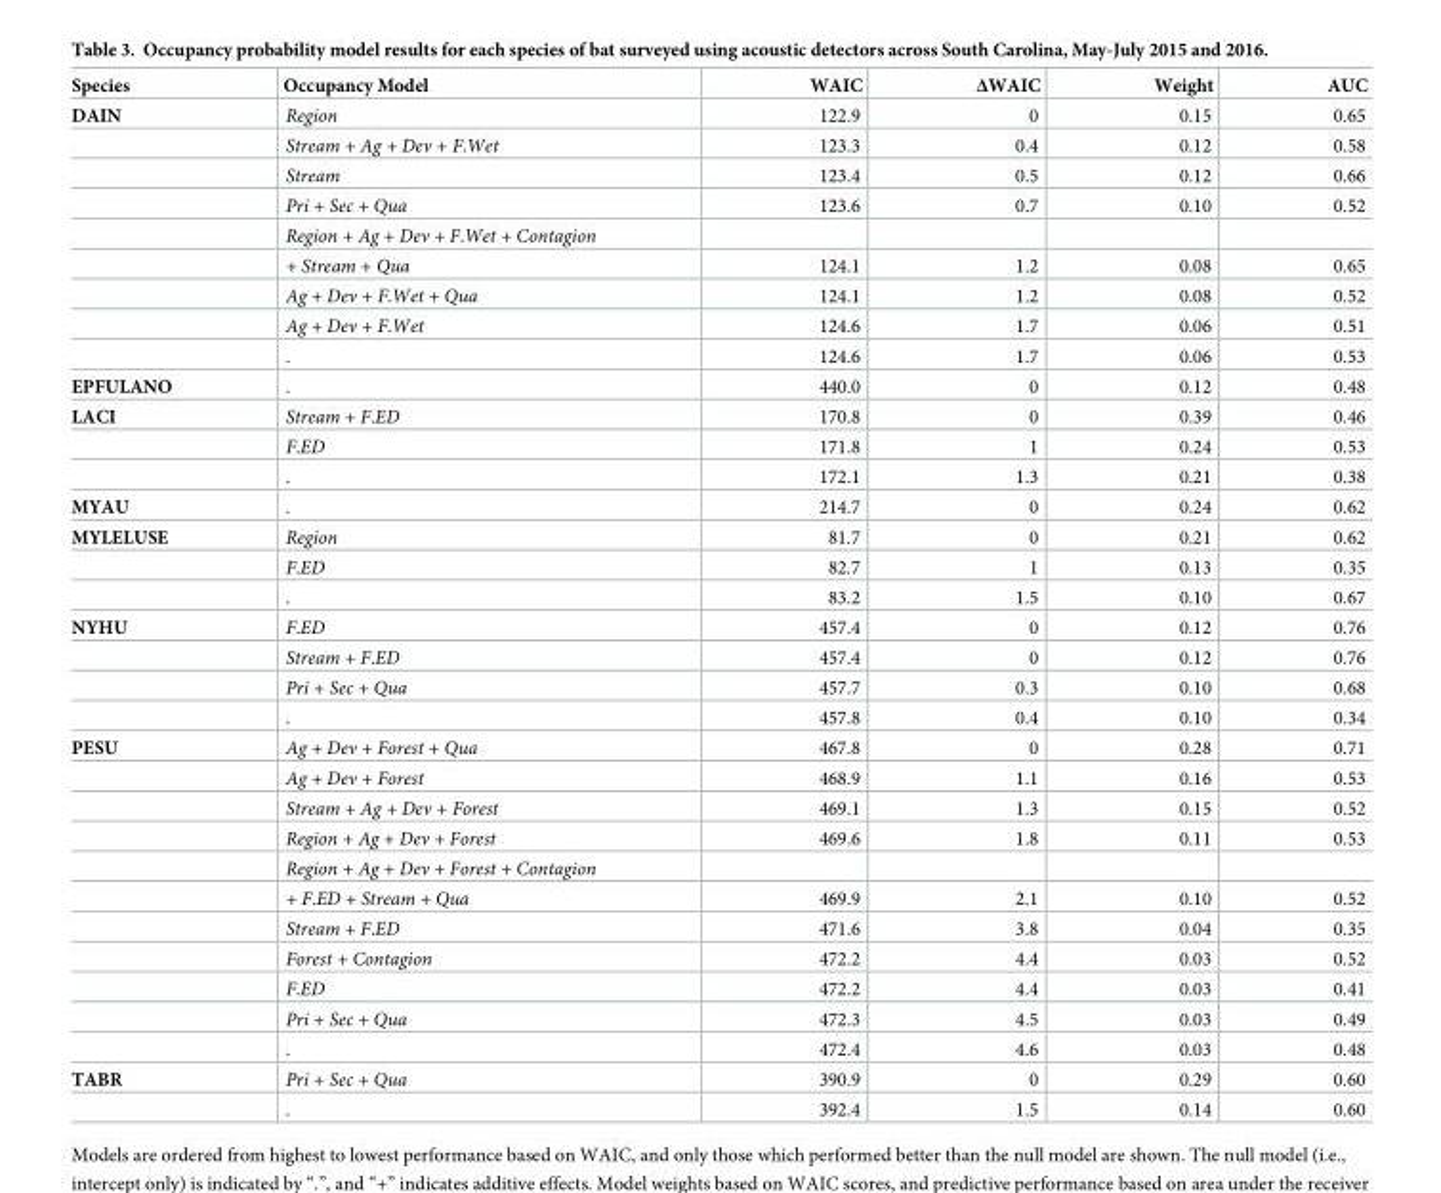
<table><thead><tr><td>Species</td><td>Occupancy Model</td><td>WAIC</td><td>ΔWAIC</td><td>Weight</td><td>AUC</td></tr></thead><tbody><tr><td rowspan="9">DAIN</td><td>Region</td><td>122.9</td><td>0</td><td>0.15</td><td>0.65</td></tr><tr><td>Stream + Ag + Dev + F.Wet</td><td>123.3</td><td>0.4</td><td>0.12</td><td>0.58</td></tr><tr><td>Stream</td><td>123.4</td><td>0.5</td><td>0.12</td><td>0.66</td></tr><tr><td>Pri + Sec + Qua</td><td>123.6</td><td>0.7</td><td>0.10</td><td>0.52</td></tr><tr><td>Region + Ag + Dev + F.Wet + Contagion</td><td></td><td></td><td></td><td></td></tr><tr><td>+ Stream + Qua</td><td>124.1</td><td>1.2</td><td>0.08</td><td>0.65</td></tr><tr><td>Ag + Dev + F.Wet + Qua</td><td>124.1</td><td>1.2</td><td>0.08</td><td>0.52</td></tr><tr><td>Ag + Dev + F.Wet</td><td>124.6</td><td>1.7</td><td>0.06</td><td>0.51</td></tr><tr><td>.</td><td>124.6</td><td>1.7</td><td>0.06</td><td>0.53</td></tr><tr><td>EPFULANO</td><td>.</td><td>440.0</td><td>0</td><td>0.12</td><td>0.48</td></tr><tr><td rowspan="3">LACI</td><td>Stream + F.ED</td><td>170.8</td><td>0</td><td>0.39</td><td>0.46</td></tr><tr><td>F.ED</td><td>171.8</td><td>1</td><td>0.24</td><td>0.53</td></tr><tr><td>.</td><td>172.1</td><td>1.3</td><td>0.21</td><td>0.38</td></tr><tr><td>MYAU</td><td>.</td><td>214.7</td><td>0</td><td>0.24</td><td>0.62</td></tr><tr><td rowspan="3">MYLELUSE</td><td>Region</td><td>81.7</td><td>0</td><td>0.21</td><td>0.62</td></tr><tr><td>F.ED</td><td>82.7</td><td>1</td><td>0.13</td><td>0.35</td></tr><tr><td>.</td><td>83.2</td><td>1.5</td><td>0.10</td><td>0.67</td></tr><tr><td rowspan="4">NYHU</td><td>F.ED</td><td>457.4</td><td>0</td><td>0.12</td><td>0.76</td></tr><tr><td>Stream + F.ED</td><td>457.4</td><td>0</td><td>0.12</td><td>0.76</td></tr><tr><td>Pri + Sec + Qua</td><td>457.7</td><td>0.3</td><td>0.10</td><td>0.68</td></tr><tr><td>.</td><td>457.8</td><td>0.4</td><td>0.10</td><td>0.34</td></tr><tr><td rowspan="11">PESU</td><td>Ag + Dev + Forest + Qua</td><td>467.8</td><td>0</td><td>0.28</td><td>0.71</td></tr><tr><td>Ag + Dev + Forest</td><td>468.9</td><td>1.1</td><td>0.16</td><td>0.53</td></tr><tr><td>Stream + Ag + Dev + Forest</td><td>469.1</td><td>1.3</td><td>0.15</td><td>0.52</td></tr><tr><td>Region + Ag + Dev + Forest</td><td>469.6</td><td>1.8</td><td>0.11</td><td>0.53</td></tr><tr><td>Region + Ag + Dev + Forest + Contagion</td><td></td><td></td><td></td><td></td></tr><tr><td>+ F.ED + Stream + Qua</td><td>469.9</td><td>2.1</td><td>0.10</td><td>0.52</td></tr><tr><td>Stream + F.ED</td><td>471.6</td><td>3.8</td><td>0.04</td><td>0.35</td></tr><tr><td>Forest + Contagion</td><td>472.2</td><td>4.4</td><td>0.03</td><td>0.52</td></tr><tr><td>F.ED</td><td>472.2</td><td>4.4</td><td>0.03</td><td>0.41</td></tr><tr><td>Pri + Sec + Qua</td><td>472.3</td><td>4.5</td><td>0.03</td><td>0.49</td></tr><tr><td>.</td><td>472.4</td><td>4.6</td><td>0.03</td><td>0.48</td></tr><tr><td rowspan="2">TABR</td><td>Pri + Sec + Qua</td><td>390.9</td><td>0</td><td>0.29</td><td>0.60</td></tr><tr><td>.</td><td>392.4</td><td>1.5</td><td>0.14</td><td>0.60</td></tr></tbody></table>